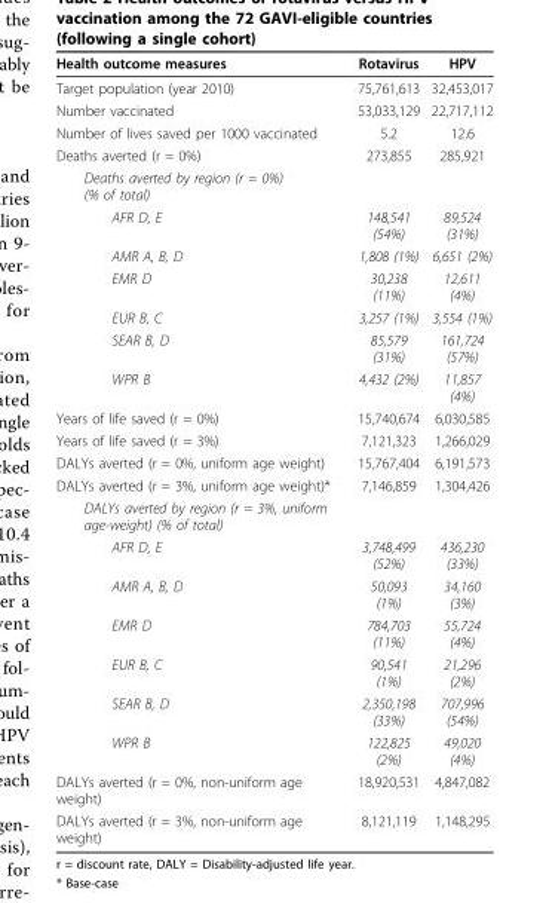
<table><thead><tr><td>Health outcome measures</td><td>Rotavirus</td><td>HPV</td></tr></thead><tbody><tr><td>Target population (year 2010)</td><td>75,761,613</td><td>32,453,017</td></tr><tr><td>Number vaccinated</td><td>53,033,129</td><td>22,717,112</td></tr><tr><td>Number of lives saved per 1000 vaccinated</td><td>5.2</td><td>12.6</td></tr><tr><td>Deaths averted (r = 0%)</td><td>273,855</td><td>285,921</td></tr><tr><td colspan="3">Deaths averted by region (r = 0%) (% of total)</td></tr><tr><td>AFR D, E</td><td>148,541 (54%)</td><td>89,524 (31%)</td></tr><tr><td>AMR A, B, D</td><td>1,808 (1%)</td><td>6,651 (2%)</td></tr><tr><td>EMR D</td><td>30,238 (11%)</td><td>12,611 (4%)</td></tr><tr><td>EUR B, C</td><td>3,257 (1%)</td><td>3,554 (1%)</td></tr><tr><td>SEAR B, D</td><td>85,579 (31%)</td><td>161,724 (57%)</td></tr><tr><td>WPR B</td><td>4,432 (2%)</td><td>11,857 (4%)</td></tr><tr><td>Years of life saved (r = 0%)</td><td>15,740,674</td><td>6,030,585</td></tr><tr><td>Years of life saved (r = 3%)</td><td>7,121,323</td><td>1,266,029</td></tr><tr><td>DALYs averted (r = 0%, uniform age weight)</td><td>15,767,404</td><td>6,191,573</td></tr><tr><td>DALYs averted (r = 3%, uniform age weight)*</td><td>7,146,859</td><td>1,304,426</td></tr><tr><td colspan="3">DALYs averted by region (r = 3%, uniform age-weight) (% of total)</td></tr><tr><td>AFR D, E</td><td>3,748,499 (52%)</td><td>436,230 (33%)</td></tr><tr><td>AMR A, B, D</td><td>50,093 (1%)</td><td>34,160 (3%)</td></tr><tr><td>EMR D</td><td>784,703 (11%)</td><td>55,724 (4%)</td></tr><tr><td>EUR B, C</td><td>90,541 (1%)</td><td>21,296 (2%)</td></tr><tr><td>SEAR B, D</td><td>2,350,198 (33%)</td><td>707,996 (54%)</td></tr><tr><td>WPR B</td><td>122,825 (2%)</td><td>49,020 (4%)</td></tr><tr><td>DALYs averted (r = 0%, non-uniform age weight)</td><td>18,920,531</td><td>4,847,082</td></tr><tr><td>DALYs averted (r = 3%, non-uniform age weight)</td><td>8,121,119</td><td>1,148,295</td></tr></tbody></table>